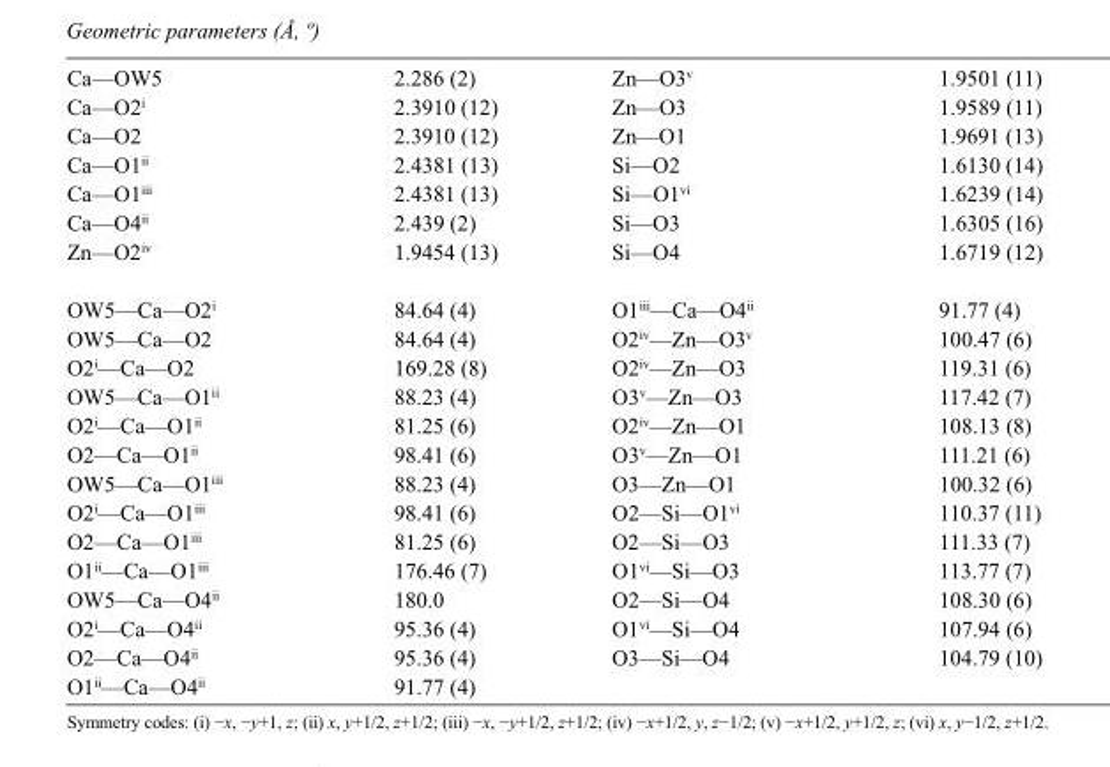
<table><tbody><tr><td>Ca—OW5</td><td>2.286 (2)</td><td>Zn—O3<sup>v</sup></td><td>1.9501 (11)</td></tr><tr><td>Ca—O2<sup>i</sup></td><td>2.3910 (12)</td><td>Zn—O3</td><td>1.9589 (11)</td></tr><tr><td>Ca—O2</td><td>2.3910 (12)</td><td>Zn—O1</td><td>1.9691 (13)</td></tr><tr><td>Ca—O1<sup>ii</sup></td><td>2.4381 (13)</td><td>Si—O2</td><td>1.6130 (14)</td></tr><tr><td>Ca—O1<sup>iii</sup></td><td>2.4381 (13)</td><td>Si—O1<sup>vi</sup></td><td>1.6239 (14)</td></tr><tr><td>Ca—O4<sup>ii</sup></td><td>2.439 (2)</td><td>Si—O3</td><td>1.6305 (16)</td></tr><tr><td>Zn—O2<sup>iv</sup></td><td>1.9454 (13)</td><td>Si—O4</td><td>1.6719 (12)</td></tr><tr><td>OW5—Ca—O2<sup>i</sup></td><td>84.64 (4)</td><td>O1<sup>iii</sup>—Ca—O4<sup>ii</sup></td><td>91.77 (4)</td></tr><tr><td>OW5—Ca—O2</td><td>84.64 (4)</td><td>O2<sup>iv</sup>—Zn—O3<sup>v</sup></td><td>100.47 (6)</td></tr><tr><td>O2<sup>i</sup>—Ca—O2</td><td>169.28 (8)</td><td>O2<sup>iv</sup>—Zn—O3</td><td>119.31 (6)</td></tr><tr><td>OW5—Ca—O1<sup>ii</sup></td><td>88.23 (4)</td><td>O3<sup>v</sup>—Zn—O3</td><td>117.42 (7)</td></tr><tr><td>O2<sup>i</sup>—Ca—O1<sup>ii</sup></td><td>81.25 (6)</td><td>O2<sup>iv</sup>—Zn—O1</td><td>108.13 (8)</td></tr><tr><td>O2—Ca—O1<sup>ii</sup></td><td>98.41 (6)</td><td>O3<sup>v</sup>—Zn—O1</td><td>111.21 (6)</td></tr><tr><td>OW5—Ca—O1<sup>iii</sup></td><td>88.23 (4)</td><td>O3—Zn—O1</td><td>100.32 (6)</td></tr><tr><td>O2<sup>i</sup>—Ca—O1<sup>iii</sup></td><td>98.41 (6)</td><td>O2—Si—O1<sup>vi</sup></td><td>110.37 (11)</td></tr><tr><td>O2—Ca—O1<sup>iii</sup></td><td>81.25 (6)</td><td>O2—Si—O3</td><td>111.33 (7)</td></tr><tr><td>O1<sup>ii</sup>—Ca—O1<sup>iii</sup></td><td>176.46 (7)</td><td>O1<sup>vi</sup>—Si—O3</td><td>113.77 (7)</td></tr><tr><td>OW5—Ca—O4<sup>ii</sup></td><td>180.0</td><td>O2—Si—O4</td><td>108.30 (6)</td></tr><tr><td>O2<sup>i</sup>—Ca—O4<sup>ii</sup></td><td>95.36 (4)</td><td>O1<sup>vi</sup>—Si—O4</td><td>107.94 (6)</td></tr><tr><td>O2—Ca—O4<sup>ii</sup></td><td>95.36 (4)</td><td>O3—Si—O4</td><td>104.79 (10)</td></tr><tr><td>O1<sup>ii</sup>—Ca—O4<sup>ii</sup></td><td>91.77 (4)</td><td></td><td></td></tr></tbody></table>